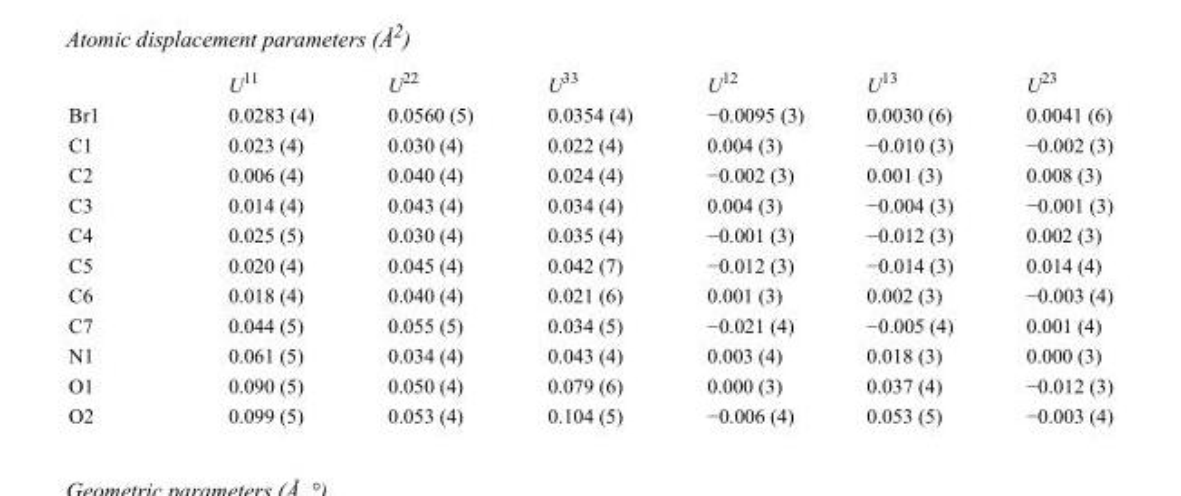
<table><thead><tr><td></td><td>U<sup>11</sup></td><td>U<sup>22</sup></td><td>U<sup>33</sup></td><td>U<sup>12</sup></td><td>U<sup>13</sup></td><td>U<sup>23</sup></td></tr></thead><tbody><tr><td>Br1</td><td>0.0283 (4)</td><td>0.0560 (5)</td><td>0.0354 (4)</td><td>−0.0095 (3)</td><td>0.0030 (6)</td><td>0.0041 (6)</td></tr><tr><td>C1</td><td>0.023 (4)</td><td>0.030 (4)</td><td>0.022 (4)</td><td>0.004 (3)</td><td>−0.010 (3)</td><td>−0.002 (3)</td></tr><tr><td>C2</td><td>0.006 (4)</td><td>0.040 (4)</td><td>0.024 (4)</td><td>−0.002 (3)</td><td>0.001 (3)</td><td>0.008 (3)</td></tr><tr><td>C3</td><td>0.014 (4)</td><td>0.043 (4)</td><td>0.034 (4)</td><td>0.004 (3)</td><td>−0.004 (3)</td><td>−0.001 (3)</td></tr><tr><td>C4</td><td>0.025 (5)</td><td>0.030 (4)</td><td>0.035 (4)</td><td>−0.001 (3)</td><td>−0.012 (3)</td><td>0.002 (3)</td></tr><tr><td>C5</td><td>0.020 (4)</td><td>0.045 (4)</td><td>0.042 (7)</td><td>−0.012 (3)</td><td>−0.014 (3)</td><td>0.014 (4)</td></tr><tr><td>C6</td><td>0.018 (4)</td><td>0.040 (4)</td><td>0.021 (6)</td><td>0.001 (3)</td><td>0.002 (3)</td><td>−0.003 (4)</td></tr><tr><td>C7</td><td>0.044 (5)</td><td>0.055 (5)</td><td>0.034 (5)</td><td>−0.021 (4)</td><td>−0.005 (4)</td><td>0.001 (4)</td></tr><tr><td>N1</td><td>0.061 (5)</td><td>0.034 (4)</td><td>0.043 (4)</td><td>0.003 (4)</td><td>0.018 (3)</td><td>0.000 (3)</td></tr><tr><td>O1</td><td>0.090 (5)</td><td>0.050 (4)</td><td>0.079 (6)</td><td>0.000 (3)</td><td>0.037 (4)</td><td>−0.012 (3)</td></tr><tr><td>O2</td><td>0.099 (5)</td><td>0.053 (4)</td><td>0.104 (5)</td><td>−0.006 (4)</td><td>0.053 (5)</td><td>−0.003 (4)</td></tr></tbody></table>